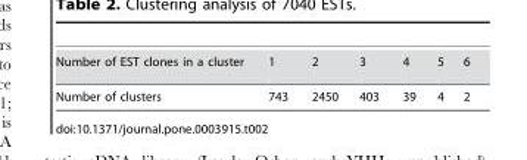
<table><tbody><tr><td>Number of EST clones in a cluster</td><td>1</td><td>2</td><td>3</td><td>4</td><td>5</td><td>6</td></tr><tr><td>Number of clusters</td><td>743</td><td>2450</td><td>403</td><td>39</td><td>4</td><td>2</td></tr></tbody></table>